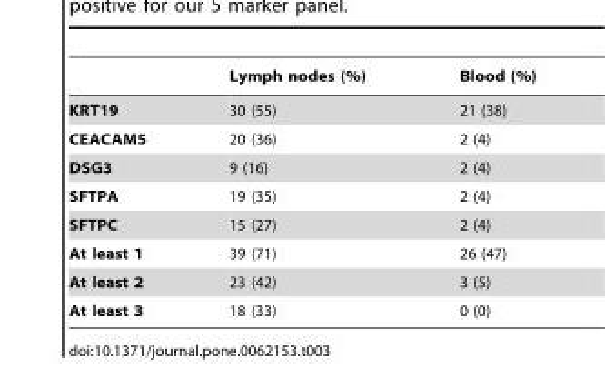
<table><thead><tr><td></td><td>Lymph nodes (%)</td><td>Blood (%)</td></tr></thead><tbody><tr><td>KRT19</td><td>30 (55)</td><td>21 (38)</td></tr><tr><td>CEACAM5</td><td>20 (36)</td><td>2 (4)</td></tr><tr><td>DSG3</td><td>9 (16)</td><td>2 (4)</td></tr><tr><td>SFTPA</td><td>19 (35)</td><td>2 (4)</td></tr><tr><td>SFTPC</td><td>15 (27)</td><td>2 (4)</td></tr><tr><td>At least 1</td><td>39 (71)</td><td>26 (47)</td></tr><tr><td>At least 2</td><td>23 (42)</td><td>3 (5)</td></tr><tr><td>At least 3</td><td>18 (33)</td><td>0 (0)</td></tr></tbody></table>